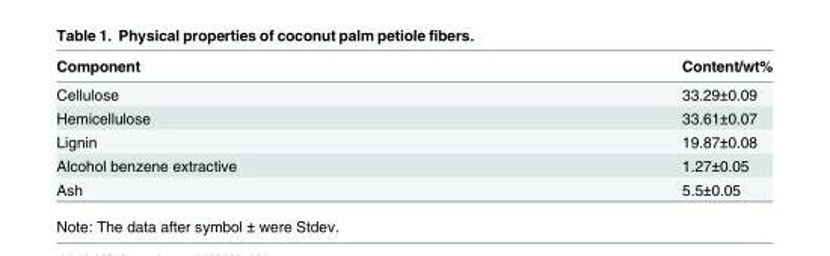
<table><thead><tr><td>Component</td><td>Content/wt%</td></tr></thead><tbody><tr><td>Cellulose</td><td>33.29±0.09</td></tr><tr><td>Hemicellulose</td><td>33.61±0.07</td></tr><tr><td>Lignin</td><td>19.87±0.08</td></tr><tr><td>Alcohol benzene extractive</td><td>1.27±0.05</td></tr><tr><td>Ash</td><td>5.5±0.05</td></tr></tbody></table>